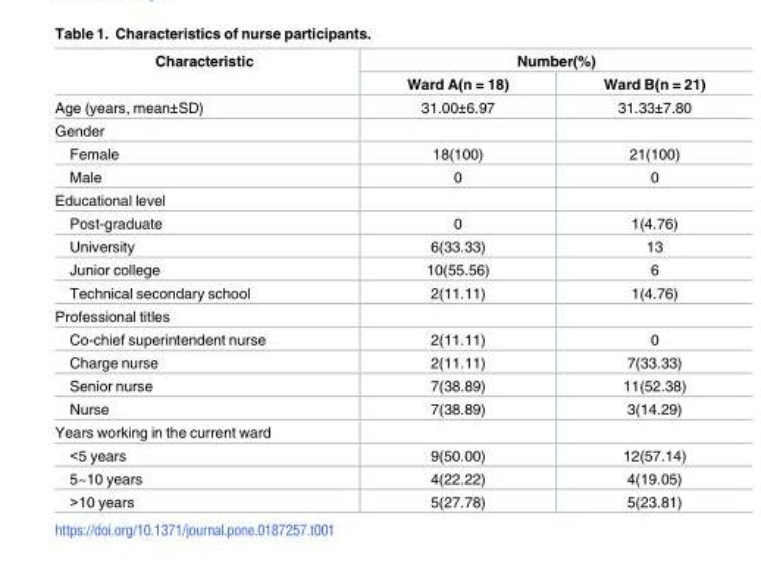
<table><thead><tr><td rowspan="2">Characteristic</td><td colspan="2">Number(%)</td></tr><tr><td>Ward A(n = 18)</td><td>Ward B(n = 21)</td></tr></thead><tbody><tr><td>Age (years, mean±SD)</td><td>31.00±6.97</td><td>31.33±7.80</td></tr><tr><td colspan="3">Gender</td></tr><tr><td>Female</td><td>18(100)</td><td>21(100)</td></tr><tr><td>Male</td><td>0</td><td>0</td></tr><tr><td colspan="3">Educational level</td></tr><tr><td>Post-graduate</td><td>0</td><td>1(4.76)</td></tr><tr><td>University</td><td>6(33.33)</td><td>13</td></tr><tr><td>Junior college</td><td>10(55.56)</td><td>6</td></tr><tr><td>Technical secondary school</td><td>2(11.11)</td><td>1(4.76)</td></tr><tr><td colspan="3">Professional titles</td></tr><tr><td>Co-chief superintendent nurse</td><td>2(11.11)</td><td>0</td></tr><tr><td>Charge nurse</td><td>2(11.11)</td><td>7(33.33)</td></tr><tr><td>Senior nurse</td><td>7(38.89)</td><td>11(52.38)</td></tr><tr><td>Nurse</td><td>7(38.89)</td><td>3(14.29)</td></tr><tr><td colspan="3">Years working in the current ward</td></tr><tr><td>&lt;5 years</td><td>9(50.00)</td><td>12(57.14)</td></tr><tr><td>5~10 years</td><td>4(22.22)</td><td>4(19.05)</td></tr><tr><td>&gt;10 years</td><td>5(27.78)</td><td>5(23.81)</td></tr></tbody></table>